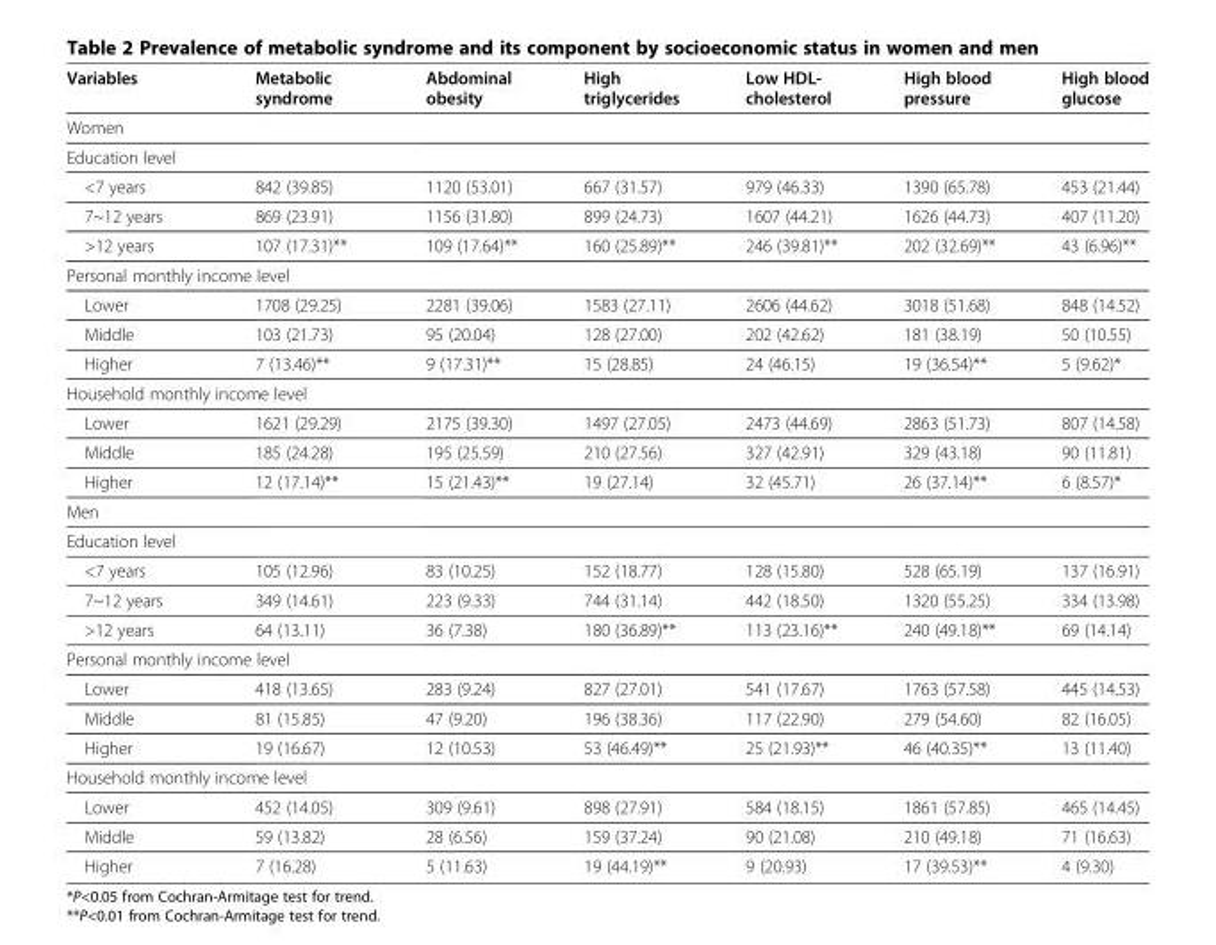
<table><thead><tr><td>Variables</td><td>Metabolic syndrome</td><td>Abdominal obesity</td><td>High triglycerides</td><td>Low HDL- cholesterol</td><td>High blood pressure</td><td>High blood glucose</td></tr></thead><tbody><tr><td colspan="7">Women</td></tr><tr><td colspan="7">Education level</td></tr><tr><td>&lt;7 years</td><td>842 (39.85)</td><td>1120 (53.01)</td><td>667 (31.57)</td><td>979 (46.33)</td><td>1390 (65.78)</td><td>453 (21.44)</td></tr><tr><td>7~12 years</td><td>869 (23.91)</td><td>1156 (31.80)</td><td>899 (24.73)</td><td>1607 (44.21)</td><td>1626 (44.73)</td><td>407 (11.20)</td></tr><tr><td>&gt;12 years</td><td>107 (17.31)**</td><td>109 (17.64)**</td><td>160 (25.89)**</td><td>246 (39.81)**</td><td>202 (32.69)**</td><td>43 (6.96)**</td></tr><tr><td colspan="7">Personal monthly income level</td></tr><tr><td>Lower</td><td>1708 (29.25)</td><td>2281 (39.06)</td><td>1583 (27.11)</td><td>2606 (44.62)</td><td>3018 (51.68)</td><td>848 (14.52)</td></tr><tr><td>Middle</td><td>103 (21.73)</td><td>95 (20.04)</td><td>128 (27.00)</td><td>202 (42.62)</td><td>181 (38.19)</td><td>50 (10.55)</td></tr><tr><td>Higher</td><td>7 (13.46)**</td><td>9 (17.31)**</td><td>15 (28.85)</td><td>24 (46.15)</td><td>19 (36.54)**</td><td>5 (9.62)*</td></tr><tr><td colspan="7">Household monthly income level</td></tr><tr><td>Lower</td><td>1621 (29.29)</td><td>2175 (39.30)</td><td>1497 (27.05)</td><td>2473 (44.69)</td><td>2863 (51.73)</td><td>807 (14.58)</td></tr><tr><td>Middle</td><td>185 (24.28)</td><td>195 (25.59)</td><td>210 (27.56)</td><td>327 (42.91)</td><td>329 (43.18)</td><td>90 (11.81)</td></tr><tr><td>Higher</td><td>12 (17.14)**</td><td>15 (21.43)**</td><td>19 (27.14)</td><td>32 (45.71)</td><td>26 (37.14)**</td><td>6 (8.57)*</td></tr><tr><td colspan="7">Men</td></tr><tr><td colspan="7">Education level</td></tr><tr><td>&lt;7 years</td><td>105 (12.96)</td><td>83 (10.25)</td><td>152 (18.77)</td><td>128 (15.80)</td><td>528 (65.19)</td><td>137 (16.91)</td></tr><tr><td>7~12 years</td><td>349 (14.61)</td><td>223 (9.33)</td><td>744 (31.14)</td><td>442 (18.50)</td><td>1320 (55.25)</td><td>334 (13.98)</td></tr><tr><td>&gt;12 years</td><td>64 (13.11)</td><td>36 (7.38)</td><td>180 (36.89)**</td><td>113 (23.16)**</td><td>240 (49.18)**</td><td>69 (14.14)</td></tr><tr><td colspan="7">Personal monthly income level</td></tr><tr><td>Lower</td><td>418 (13.65)</td><td>283 (9.24)</td><td>827 (27.01)</td><td>541 (17.67)</td><td>1763 (57.58)</td><td>445 (14.53)</td></tr><tr><td>Middle</td><td>81 (15.85)</td><td>47 (9.20)</td><td>196 (38.36)</td><td>117 (22.90)</td><td>279 (54.60)</td><td>82 (16.05)</td></tr><tr><td>Higher</td><td>19 (16.67)</td><td>12 (10.53)</td><td>53 (46.49)**</td><td>25 (21.93)**</td><td>46 (40.35)**</td><td>13 (11.40)</td></tr><tr><td colspan="7">Household monthly income level</td></tr><tr><td>Lower</td><td>452 (14.05)</td><td>309 (9.61)</td><td>898 (27.91)</td><td>584 (18.15)</td><td>1861 (57.85)</td><td>465 (14.45)</td></tr><tr><td>Middle</td><td>59 (13.82)</td><td>28 (6.56)</td><td>159 (37.24)</td><td>90 (21.08)</td><td>210 (49.18)</td><td>71 (16.63)</td></tr><tr><td>Higher</td><td>7 (16.28)</td><td>5 (11.63)</td><td>19 (44.19)**</td><td>9 (20.93)</td><td>17 (39.53)**</td><td>4 (9.30)</td></tr></tbody></table>